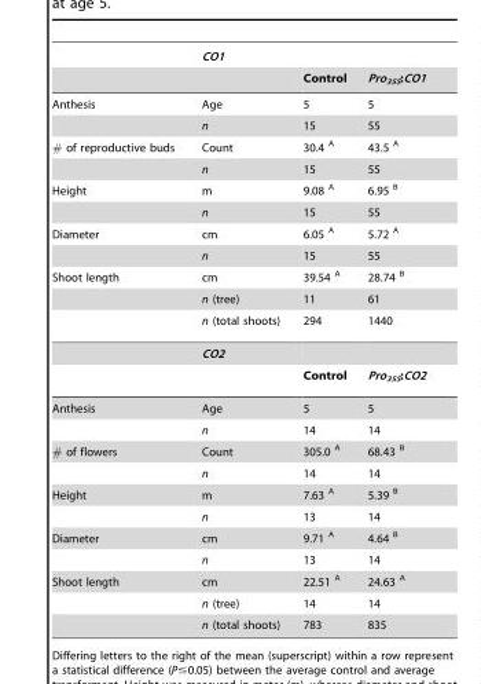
<table><thead><tr><td rowspan="2"></td><td rowspan="2">CO1</td><td rowspan="2">Control</td><td rowspan="2">Pro<sub>35S</sub>:CO1</td></tr><tr></tr></thead><tbody><tr><td rowspan="2">Anthesis</td><td>Age</td><td>5</td><td>5</td></tr><tr><td>n</td><td>15</td><td>55</td></tr><tr><td rowspan="2"># of reproductive buds</td><td>Count</td><td>30.4 <sup>A</sup></td><td>43.5 <sup>A</sup></td></tr><tr><td>n</td><td>15</td><td>55</td></tr><tr><td rowspan="2">Height</td><td>m</td><td>9.08 <sup>A</sup></td><td>6.95 <sup>B</sup></td></tr><tr><td>n</td><td>15</td><td>55</td></tr><tr><td rowspan="2">Diameter</td><td>cm</td><td>6.05 <sup>A</sup></td><td>5.72 <sup>A</sup></td></tr><tr><td>n</td><td>15</td><td>55</td></tr><tr><td rowspan="5">Shoot length</td><td>cm</td><td>39.54 <sup>A</sup></td><td>28.74 <sup>B</sup></td></tr><tr><td>n (tree)</td><td>11</td><td>61</td></tr><tr><td>n (total shoots)</td><td>294</td><td>1440</td></tr><tr><td>CO2</td><td></td><td></td></tr><tr><td></td><td>Control</td><td>Pro<sub>35S</sub>:CO2</td></tr><tr><td rowspan="2">Anthesis</td><td>Age</td><td>5</td><td>5</td></tr><tr><td>n</td><td>14</td><td>14</td></tr><tr><td rowspan="2"># of flowers</td><td>Count</td><td>305.0 <sup>A</sup></td><td>68.43 <sup>B</sup></td></tr><tr><td>n</td><td>14</td><td>14</td></tr><tr><td rowspan="2">Height</td><td>m</td><td>7.63 <sup>A</sup></td><td>5.39 <sup>B</sup></td></tr><tr><td>n</td><td>13</td><td>14</td></tr><tr><td rowspan="2">Diameter</td><td>cm</td><td>9.71 <sup>A</sup></td><td>4.64 <sup>B</sup></td></tr><tr><td>n</td><td>13</td><td>14</td></tr><tr><td rowspan="3">Shoot length</td><td>cm</td><td>22.51 <sup>A</sup></td><td>24.63 <sup>A</sup></td></tr><tr><td>n (tree)</td><td>14</td><td>14</td></tr><tr><td>n (total shoots)</td><td>783</td><td>835</td></tr></tbody></table>